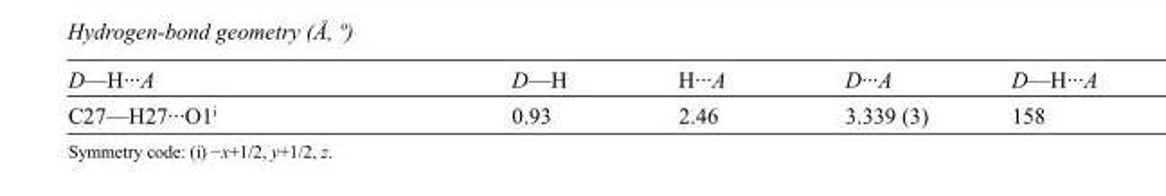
<table><tbody><tr><td>D—H···A</td><td>D—H</td><td>H···A</td><td>D···A</td><td>D—H···A</td></tr><tr><td>C27—H27···O1<sup>i</sup></td><td>0.93</td><td>2.46</td><td>3.339 (3)</td><td>158</td></tr></tbody></table>